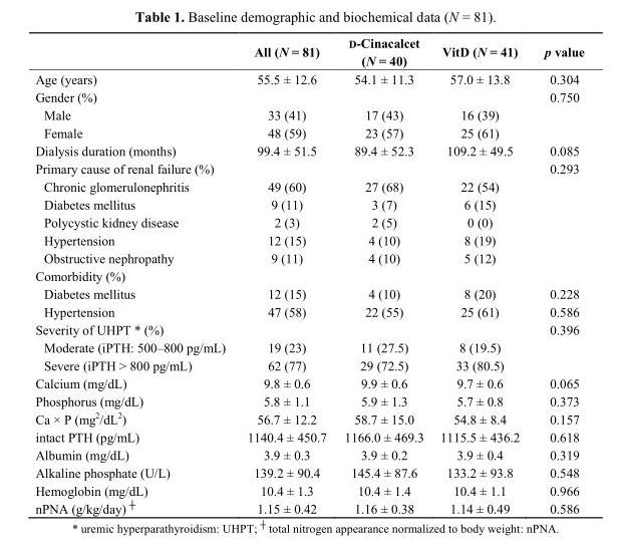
<table><thead><tr><td></td><td>All (N = 81)</td><td>D-Cinacalcet (N = 40)</td><td>VitD (N = 41)</td><td>p value</td></tr></thead><tbody><tr><td>Age (years)</td><td>55.5 ± 12.6</td><td>54.1 ± 11.3</td><td>57.0 ± 13.8</td><td>0.304</td></tr><tr><td>Gender (%)</td><td></td><td></td><td></td><td>0.750</td></tr><tr><td>Male</td><td>33 (41)</td><td>17 (43)</td><td>16 (39)</td><td></td></tr><tr><td>Female</td><td>48 (59)</td><td>23 (57)</td><td>25 (61)</td><td></td></tr><tr><td>Dialysis duration (months)</td><td>99.4 ± 51.5</td><td>89.4 ± 52.3</td><td>109.2 ± 49.5</td><td>0.085</td></tr><tr><td>Primary cause of renal failure (%)</td><td></td><td></td><td></td><td>0.293</td></tr><tr><td>Chronic glomerulonephritis</td><td>49 (60)</td><td>27 (68)</td><td>22 (54)</td><td></td></tr><tr><td>Diabetes mellitus</td><td>9 (11)</td><td>3 (7)</td><td>6 (15)</td><td></td></tr><tr><td>Polycystic kidney disease</td><td>2 (3)</td><td>2 (5)</td><td>0 (0)</td><td></td></tr><tr><td>Hypertension</td><td>12 (15)</td><td>4 (10)</td><td>8 (19)</td><td></td></tr><tr><td>Obstructive nephropathy</td><td>9 (11)</td><td>4 (10)</td><td>5 (12)</td><td></td></tr><tr><td colspan="5">Comorbidity (%)</td></tr><tr><td>Diabetes mellitus</td><td>12 (15)</td><td>4 (10)</td><td>8 (20)</td><td>0.228</td></tr><tr><td>Hypertension</td><td>47 (58)</td><td>22 (55)</td><td>25 (61)</td><td>0.586</td></tr><tr><td>Severity of UHPT * (%)</td><td></td><td></td><td></td><td>0.396</td></tr><tr><td>Moderate (iPTH: 500–800 pg/mL)</td><td>19 (23)</td><td>11 (27.5)</td><td>8 (19.5)</td><td></td></tr><tr><td>Severe (iPTH &gt; 800 pg/mL)</td><td>62 (77)</td><td>29 (72.5)</td><td>33 (80.5)</td><td></td></tr><tr><td>Calcium (mg/dL)</td><td>9.8 ± 0.6</td><td>9.9 ± 0.6</td><td>9.7 ± 0.6</td><td>0.065</td></tr><tr><td>Phosphorus (mg/dL)</td><td>5.8 ± 1.1</td><td>5.9 ± 1.3</td><td>5.7 ± 0.8</td><td>0.373</td></tr><tr><td>Ca × P (mg<sup>2</sup>/dL<sup>2</sup>)</td><td>56.7 ± 12.2</td><td>58.7 ± 15.0</td><td>54.8 ± 8.4</td><td>0.157</td></tr><tr><td>intact PTH (pg/mL)</td><td>1140.4 ± 450.7</td><td>1166.0 ± 469.3</td><td>1115.5 ± 436.2</td><td>0.618</td></tr><tr><td>Albumin (mg/dL)</td><td>3.9 ± 0.3</td><td>3.9 ± 0.2</td><td>3.9 ± 0.4</td><td>0.319</td></tr><tr><td>Alkaline phosphate (U/L)</td><td>139.2 ± 90.4</td><td>145.4 ± 87.6</td><td>133.2 ± 93.8</td><td>0.548</td></tr><tr><td>Hemoglobin (mg/dL)</td><td>10.4 ± 1.3</td><td>10.4 ± 1.4</td><td>10.4 ± 1.1</td><td>0.966</td></tr><tr><td>nPNA (g/kg/day) <sup>┼</sup></td><td>1.15 ± 0.42</td><td>1.16 ± 0.38</td><td>1.14 ± 0.49</td><td>0.586</td></tr></tbody></table>